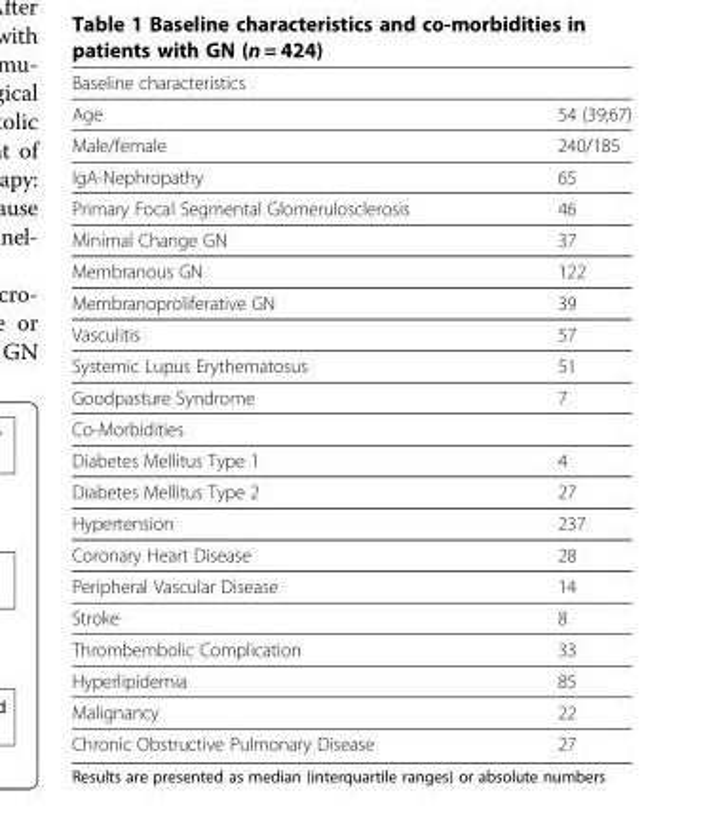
<table><tbody><tr><td colspan="2">Baseline characteristics</td></tr><tr><td>Age</td><td>54 (39;67)</td></tr><tr><td>Male/female</td><td>240/185</td></tr><tr><td>IgA-Nephropathy</td><td>65</td></tr><tr><td>Primary Focal Segmental Glomerulosclerosis</td><td>46</td></tr><tr><td>Minimal Change GN</td><td>37</td></tr><tr><td>Membranous GN</td><td>122</td></tr><tr><td>Membranoproliferative GN</td><td>39</td></tr><tr><td>Vasculitis</td><td>57</td></tr><tr><td>Systemic Lupus Erythematosus</td><td>51</td></tr><tr><td>Goodpasture Syndrome</td><td>7</td></tr><tr><td colspan="2">Co-Morbidities</td></tr><tr><td>Diabetes Mellitus Type 1</td><td>4</td></tr><tr><td>Diabetes Mellitus Type 2</td><td>27</td></tr><tr><td>Hypertension</td><td>237</td></tr><tr><td>Coronary Heart Disease</td><td>28</td></tr><tr><td>Peripheral Vascular Disease</td><td>14</td></tr><tr><td>Stroke</td><td>8</td></tr><tr><td>Thrombembolic Complication</td><td>33</td></tr><tr><td>Hyperlipidemia</td><td>85</td></tr><tr><td>Malignancy</td><td>22</td></tr><tr><td>Chronic Obstructive Pulmonary Disease</td><td>27</td></tr></tbody></table>